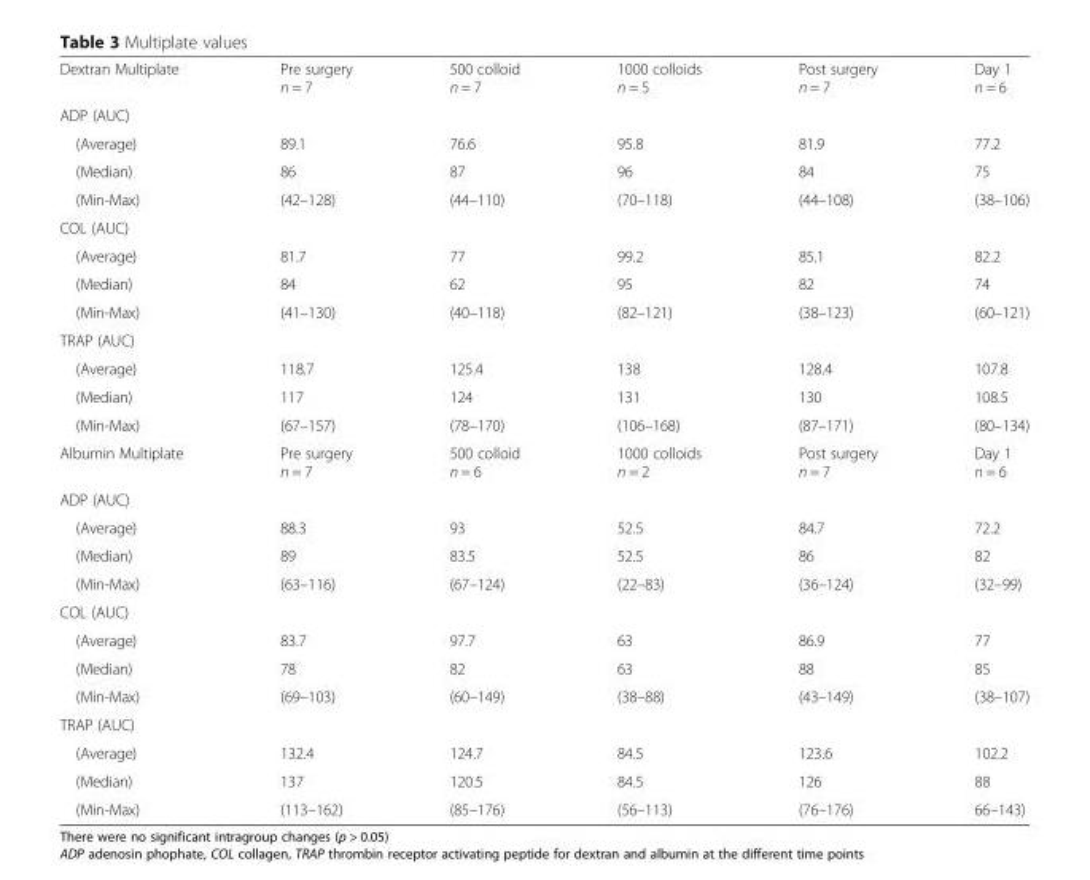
<table><tbody><tr><td>Dextran Multiplate</td><td>Pre surgery n = 7</td><td>500 colloid n = 7</td><td>1000 colloids n = 5</td><td>Post surgery n = 7</td><td>Day 1 n = 6</td></tr><tr><td colspan="6">ADP (AUC)</td></tr><tr><td>(Average)</td><td>89.1</td><td>76.6</td><td>95.8</td><td>81.9</td><td>77.2</td></tr><tr><td>(Median)</td><td>86</td><td>87</td><td>96</td><td>84</td><td>75</td></tr><tr><td>(Min-Max)</td><td>(42–128)</td><td>(44–110)</td><td>(70–118)</td><td>(44–108)</td><td>(38–106)</td></tr><tr><td colspan="6">COL (AUC)</td></tr><tr><td>(Average)</td><td>81.7</td><td>77</td><td>99.2</td><td>85.1</td><td>82.2</td></tr><tr><td>(Median)</td><td>84</td><td>62</td><td>95</td><td>82</td><td>74</td></tr><tr><td>(Min-Max)</td><td>(41–130)</td><td>(40–118)</td><td>(82–121)</td><td>(38–123)</td><td>(60–121)</td></tr><tr><td colspan="6">TRAP (AUC)</td></tr><tr><td>(Average)</td><td>118.7</td><td>125.4</td><td>138</td><td>128.4</td><td>107.8</td></tr><tr><td>(Median)</td><td>117</td><td>124</td><td>131</td><td>130</td><td>108.5</td></tr><tr><td>(Min-Max)</td><td>(67–157)</td><td>(78–170)</td><td>(106–168)</td><td>(87–171)</td><td>(80–134)</td></tr><tr><td>Albumin Multiplate</td><td>Pre surgery n = 7</td><td>500 colloid n = 6</td><td>1000 colloids n = 2</td><td>Post surgery n = 7</td><td>Day 1 n = 6</td></tr><tr><td colspan="6">ADP (AUC)</td></tr><tr><td>(Average)</td><td>88.3</td><td>93</td><td>52.5</td><td>84.7</td><td>72.2</td></tr><tr><td>(Median)</td><td>89</td><td>83.5</td><td>52.5</td><td>86</td><td>82</td></tr><tr><td>(Min-Max)</td><td>(63–116)</td><td>(67–124)</td><td>(22–83)</td><td>(36–124)</td><td>(32–99)</td></tr><tr><td colspan="6">COL (AUC)</td></tr><tr><td>(Average)</td><td>83.7</td><td>97.7</td><td>63</td><td>86.9</td><td>77</td></tr><tr><td>(Median)</td><td>78</td><td>82</td><td>63</td><td>88</td><td>85</td></tr><tr><td>(Min-Max)</td><td>(69–103)</td><td>(60–149)</td><td>(38–88)</td><td>(43–149)</td><td>(38–107)</td></tr><tr><td colspan="6">TRAP (AUC)</td></tr><tr><td>(Average)</td><td>132.4</td><td>124.7</td><td>84.5</td><td>123.6</td><td>102.2</td></tr><tr><td>(Median)</td><td>137</td><td>120.5</td><td>84.5</td><td>126</td><td>88</td></tr><tr><td>(Min-Max)</td><td>(113–162)</td><td>(85–176)</td><td>(56–113)</td><td>(76–176)</td><td>66–143)</td></tr></tbody></table>